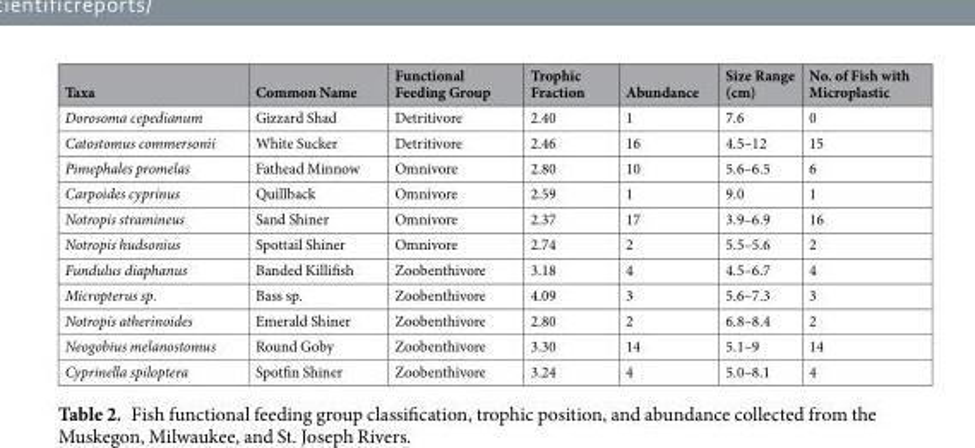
<table><thead><tr><td>Taxa</td><td>Common Name</td><td>Functional Feeding Group</td><td>Trophic Fraction</td><td>Abundance</td><td>Size Range (cm)</td><td>No. of Fish with Microplastic</td></tr></thead><tbody><tr><td>Dorosoma cepedianum</td><td>Gizzard Shad</td><td>Detritivore</td><td>2.40</td><td>1</td><td>7.6</td><td>0</td></tr><tr><td>Catostomus commersonii</td><td>White Sucker</td><td>Detritivore</td><td>2.46</td><td>16</td><td>4.5–12</td><td>15</td></tr><tr><td>Pimephales promelas</td><td>Fathead Minnow</td><td>Omnivore</td><td>2.80</td><td>10</td><td>5.6–6.5</td><td>6</td></tr><tr><td>Carpoides cyprinus</td><td>Quillback</td><td>Omnivore</td><td>2.59</td><td>1</td><td>9.0</td><td>1</td></tr><tr><td>Notropis stramineus</td><td>Sand Shiner</td><td>Omnivore</td><td>2.37</td><td>17</td><td>3.9–6.9</td><td>16</td></tr><tr><td>Notropis hudsonius</td><td>Spottail Shiner</td><td>Omnivore</td><td>2.74</td><td>2</td><td>5.5–5.6</td><td>2</td></tr><tr><td>Fundulus diaphanus</td><td>Banded Killifish</td><td>Zoobenthivore</td><td>3.18</td><td>4</td><td>4.5–6.7</td><td>4</td></tr><tr><td>Micropterus sp.</td><td>Bass sp.</td><td>Zoobenthivore</td><td>4.09</td><td>3</td><td>5.6–7.3</td><td>3</td></tr><tr><td>Notropis atherinoides</td><td>Emerald Shiner</td><td>Zoobenthivore</td><td>2.80</td><td>2</td><td>6.8–8.4</td><td>2</td></tr><tr><td>Neogobius melanostomus</td><td>Round Goby</td><td>Zoobenthivore</td><td>3.30</td><td>14</td><td>5.1–9</td><td>14</td></tr><tr><td>Cyprinella spiloptera</td><td>Spotfin Shiner</td><td>Zoobenthivore</td><td>3.24</td><td>4</td><td>5.0–8.1</td><td>4</td></tr></tbody></table>